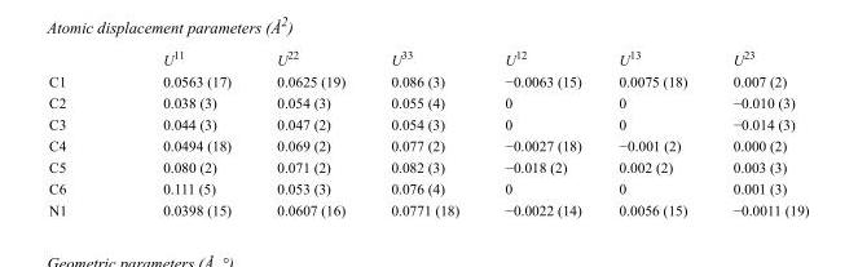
<table><thead><tr><td></td><td>U<sup>11</sup></td><td>U<sup>22</sup></td><td>U<sup>33</sup></td><td>U<sup>12</sup></td><td>U<sup>13</sup></td><td>U<sup>23</sup></td></tr></thead><tbody><tr><td>C1</td><td>0.0563 (17)</td><td>0.0625 (19)</td><td>0.086 (3)</td><td>−0.0063 (15)</td><td>0.0075 (18)</td><td>0.007 (2)</td></tr><tr><td>C2</td><td>0.038 (3)</td><td>0.054 (3)</td><td>0.055 (4)</td><td>0</td><td>0</td><td>−0.010 (3)</td></tr><tr><td>C3</td><td>0.044 (3)</td><td>0.047 (2)</td><td>0.054 (3)</td><td>0</td><td>0</td><td>−0.014 (3)</td></tr><tr><td>C4</td><td>0.0494 (18)</td><td>0.069 (2)</td><td>0.077 (2)</td><td>−0.0027 (18)</td><td>−0.001 (2)</td><td>0.000 (2)</td></tr><tr><td>C5</td><td>0.080 (2)</td><td>0.071 (2)</td><td>0.082 (3)</td><td>−0.018 (2)</td><td>0.002 (2)</td><td>0.003 (3)</td></tr><tr><td>C6</td><td>0.111 (5)</td><td>0.053 (3)</td><td>0.076 (4)</td><td>0</td><td>0</td><td>0.001 (3)</td></tr><tr><td>N1</td><td>0.0398 (15)</td><td>0.0607 (16)</td><td>0.0771 (18)</td><td>−0.0022 (14)</td><td>0.0056 (15)</td><td>−0.0011 (19)</td></tr></tbody></table>